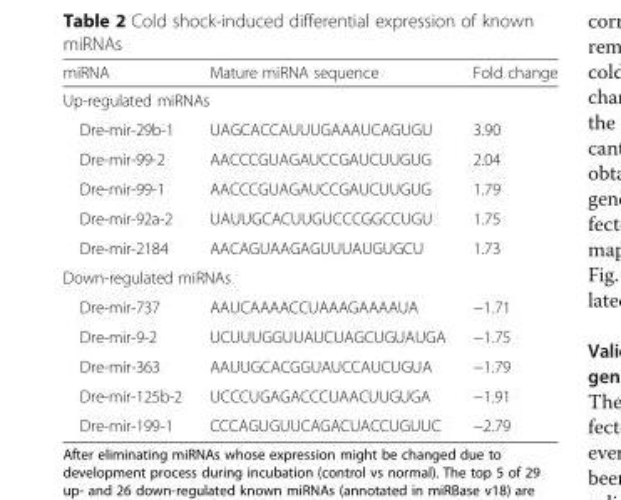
<table><thead><tr><td>miRNA</td><td>Mature miRNA sequence</td><td>Fold change</td></tr></thead><tbody><tr><td colspan="3">Up-regulated miRNAs</td></tr><tr><td>Dre-mir-29b-1</td><td>UAGCACCAUUUGAAAUCAGUGU</td><td>3.90</td></tr><tr><td>Dre-mir-99-2</td><td>AACCCGUAGAUCCGAUCUUGUG</td><td>2.04</td></tr><tr><td>Dre-mir-99-1</td><td>AACCCGUAGAUCCGAUCUUGUG</td><td>1.79</td></tr><tr><td>Dre-mir-92a-2</td><td>UAUUGCACUUGUCCCGGCCUGU</td><td>1.75</td></tr><tr><td>Dre-mir-2184</td><td>AACAGUAAGAGUUUAUGUGCU</td><td>1.73</td></tr><tr><td colspan="3">Down-regulated miRNAs</td></tr><tr><td>Dre-mir-737</td><td>AAUCAAAACCUAAAGAAAAUA</td><td>−1.71</td></tr><tr><td>Dre-mir-9-2</td><td>UCUUUGGUUAUCUAGCUGUAUGA</td><td>−1.75</td></tr><tr><td>Dre-mir-363</td><td>AAUUGCACGGUAUCCAUCUGUA</td><td>−1.79</td></tr><tr><td>Dre-mir-125b-2</td><td>UCCCUGAGACCCUAACUUGUGA</td><td>−1.91</td></tr><tr><td>Dre-mir-199-1</td><td>CCCAGUGUUCAGACUACCUGUUC</td><td>−2.79</td></tr></tbody></table>